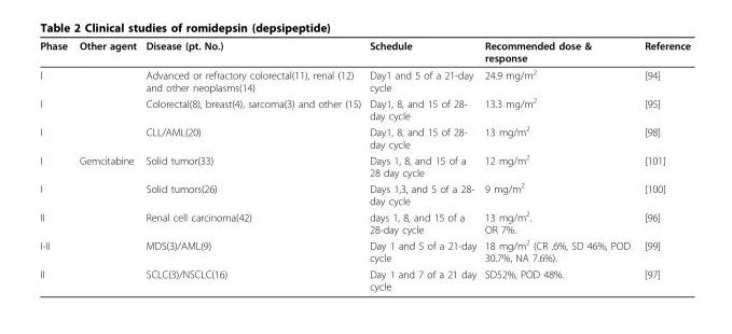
<table><thead><tr><td>Phase</td><td>Other agent</td><td>Disease (pt. No.)</td><td>Schedule</td><td>Recommended dose &amp; response</td><td>Reference</td></tr></thead><tbody><tr><td>I</td><td></td><td>Advanced or refractory colorectal(11), renal (12) and other neoplasms(14)</td><td>Day1 and 5 of a 21-day cycle</td><td>24.9 mg/m<sup>2</sup></td><td>[94]</td></tr><tr><td>I</td><td></td><td>Colorectal(8), breast(4), sarcoma(3) and other (15)</td><td>Day1, 8, and 15 of 28- day cycle</td><td>13.3 mg/m<sup>2</sup></td><td>[95]</td></tr><tr><td>I</td><td></td><td>CLL/AML(20)</td><td>Day1, 8, and 15 of 28- day cycle</td><td>13 mg/m<sup>2</sup></td><td>[98]</td></tr><tr><td>I</td><td>Gemcitabine</td><td>Solid tumor(33)</td><td>Days 1, 8, and 15 of a 28 day cycle</td><td>12 mg/m<sup>2</sup></td><td>[101]</td></tr><tr><td>I</td><td></td><td>Solid tumors(26)</td><td>Days 1,3, and 5 of a 28- day cycle</td><td>9 mg/m<sup>2</sup></td><td>[100]</td></tr><tr><td>II</td><td></td><td>Renal cell carcinoma(42)</td><td>days 1, 8, and 15 of a 28-day cycle</td><td>13 mg/m<sup>2</sup>. OR 7%.</td><td>[96]</td></tr><tr><td>I-II</td><td></td><td>MDS(3)/AML(9)</td><td>Day 1 and 5 of a 21-day cycle</td><td>18 mg/m<sup>2</sup> (CR .6%, SD 46%, POD 30.7%, NA 7.6%).</td><td>[99]</td></tr><tr><td>II</td><td></td><td>SCLC(3)/NSCLC(16)</td><td>Day 1 and 7 of a 21 day cycle</td><td>SD52%, POD 48%.</td><td>[97]</td></tr></tbody></table>